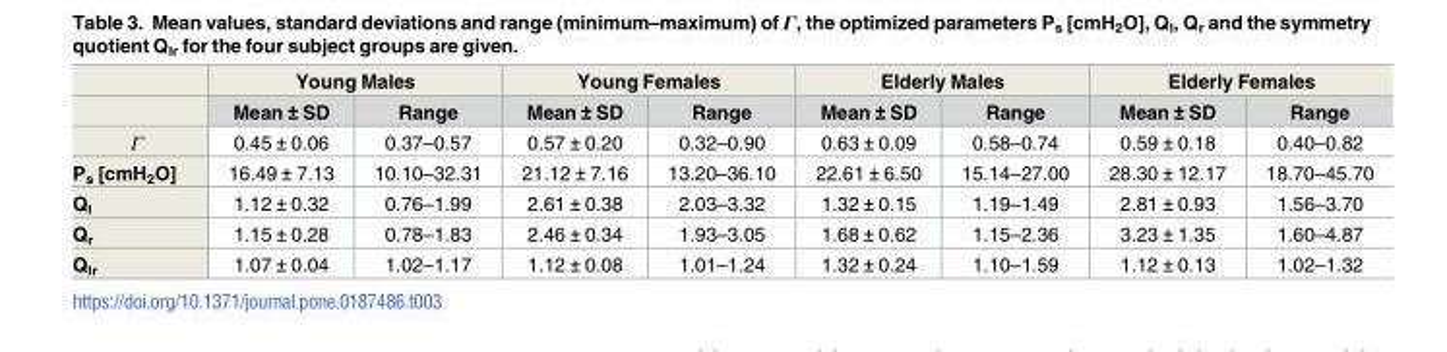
<table><thead><tr><td rowspan="2"></td><td colspan="2">Young Males</td><td colspan="2">Young Females</td><td colspan="2">Elderly Males</td><td colspan="2">Elderly Females</td></tr><tr><td>Mean ± SD</td><td>Range</td><td>Mean ± SD</td><td>Range</td><td>Mean ± SD</td><td>Range</td><td>Mean ± SD</td><td>Range</td></tr></thead><tbody><tr><td>Γ</td><td>0.45 ± 0.06</td><td>0.37–0.57</td><td>0.57 ± 0.20</td><td>0.32–0.90</td><td>0.63 ± 0.09</td><td>0.58–0.74</td><td>0.59 ± 0.18</td><td>0.40–0.82</td></tr><tr><td>P<sub>s</sub> [cmH<sub>2</sub>O]</td><td>16.49 ± 7.13</td><td>10.10–32.31</td><td>21.12 ± 7.16</td><td>13.20–36.10</td><td>22.61 ± 6.50</td><td>15.14–27.00</td><td>28.30 ± 12.17</td><td>18.70–45.70</td></tr><tr><td>Q<sub>l</sub></td><td>1.12 ± 0.32</td><td>0.76–1.99</td><td>2.61 ± 0.38</td><td>2.03–3.32</td><td>1.32 ± 0.15</td><td>1.19–1.49</td><td>2.81 ± 0.93</td><td>1.56–3.70</td></tr><tr><td>Q<sub>r</sub></td><td>1.15 ± 0.28</td><td>0.78–1.83</td><td>2.46 ± 0.34</td><td>1.93–3.05</td><td>1.68 ± 0.62</td><td>1.15–2.36</td><td>3.23 ± 1.35</td><td>1.60–4.87</td></tr><tr><td>Q<sub>lr</sub></td><td>1.07 ± 0.04</td><td>1.02–1.17</td><td>1.12 ± 0.08</td><td>1.01–1.24</td><td>1.32 ± 0.24</td><td>1.10–1.59</td><td>1.12 ± 0.13</td><td>1.02–1.32</td></tr></tbody></table>